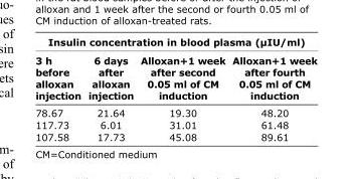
<table><thead><tr><td colspan="4">Insulin concentration in blood plasma (μIU/ml)</td></tr><tr><td>3 h before alloxan injection</td><td>6 days after alloxan injection</td><td>Alloxan+1 week after second 0.05 ml of CM induction</td><td>Alloxan+1 week after fourth 0.05 ml of CM induction</td></tr></thead><tbody><tr><td>78.67</td><td>21.64</td><td>19.30</td><td>48.20</td></tr><tr><td>117.73</td><td>6.01</td><td>31.01</td><td>61.48</td></tr><tr><td>107.58</td><td>17.73</td><td>45.08</td><td>89.61</td></tr></tbody></table>